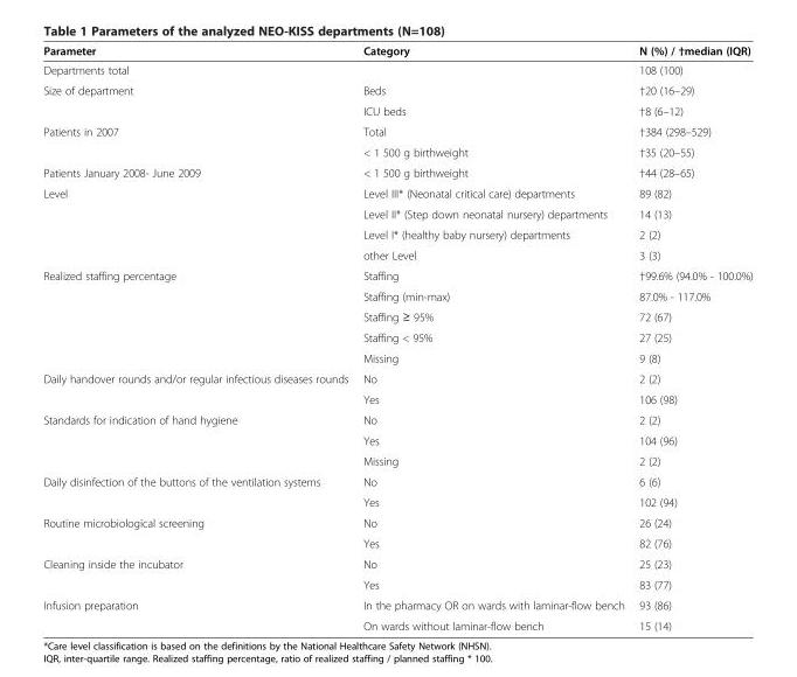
<table><thead><tr><td>Parameter</td><td>Category</td><td>N (%) / †median (IQR)</td></tr></thead><tbody><tr><td>Departments total</td><td></td><td>108 (100)</td></tr><tr><td rowspan="2">Size of department</td><td>Beds</td><td>†20 (16–29)</td></tr><tr><td>ICU beds</td><td>†8 (6–12)</td></tr><tr><td rowspan="2">Patients in 2007</td><td>Total</td><td>†384 (298–529)</td></tr><tr><td>&lt; 1 500 g birthweight</td><td>†35 (20–55)</td></tr><tr><td>Patients January 2008- June 2009</td><td>&lt; 1 500 g birthweight</td><td>†44 (28–65)</td></tr><tr><td rowspan="4">Level</td><td>Level III* (Neonatal critical care) departments</td><td>89 (82)</td></tr><tr><td>Level II* (Step down neonatal nursery) departments</td><td>14 (13)</td></tr><tr><td>Level I* (healthy baby nursery) departments</td><td>2 (2)</td></tr><tr><td>other Level</td><td>3 (3)</td></tr><tr><td rowspan="5">Realized staffing percentage</td><td>Staffing</td><td>†99.6% (94.0% - 100.0%)</td></tr><tr><td>Staffing (min-max)</td><td>87.0% - 117.0%</td></tr><tr><td>Staffing ≥ 95%</td><td>72 (67)</td></tr><tr><td>Staffing &lt; 95%</td><td>27 (25)</td></tr><tr><td>Missing</td><td>9 (8)</td></tr><tr><td rowspan="2">Daily handover rounds and/or regular infectious diseases rounds</td><td>No</td><td>2 (2)</td></tr><tr><td>Yes</td><td>106 (98)</td></tr><tr><td rowspan="3">Standards for indication of hand hygiene</td><td>No</td><td>2 (2)</td></tr><tr><td>Yes</td><td>104 (96)</td></tr><tr><td>Missing</td><td>2 (2)</td></tr><tr><td rowspan="2">Daily disinfection of the buttons of the ventilation systems</td><td>No</td><td>6 (6)</td></tr><tr><td>Yes</td><td>102 (94)</td></tr><tr><td rowspan="2">Routine microbiological screening</td><td>No</td><td>26 (24)</td></tr><tr><td>Yes</td><td>82 (76)</td></tr><tr><td rowspan="2">Cleaning inside the incubator</td><td>No</td><td>25 (23)</td></tr><tr><td>Yes</td><td>83 (77)</td></tr><tr><td rowspan="2">Infusion preparation</td><td>In the pharmacy OR on wards with laminar-flow bench</td><td>93 (86)</td></tr><tr><td>On wards without laminar-flow bench</td><td>15 (14)</td></tr></tbody></table>